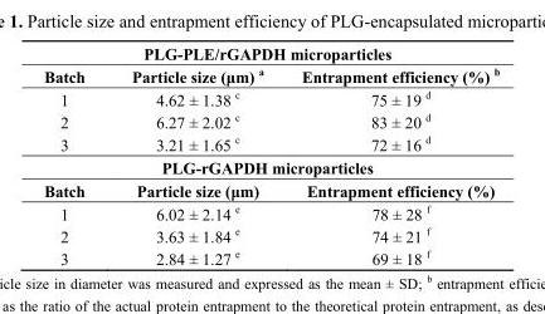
<table><thead><tr><td colspan="3">PLG-PLE/rGAPDH microparticles</td></tr><tr><td>Batch</td><td>Particle size (μm) <sup>a</sup></td><td>Entrapment efficiency (%) <sup>b</sup></td></tr></thead><tbody><tr><td>1</td><td>4.62 ± 1.38 <sup>c</sup></td><td>75 ± 19 <sup>d</sup></td></tr><tr><td>2</td><td>6.27 ± 2.02 <sup>c</sup></td><td>83 ± 20 <sup>d</sup></td></tr><tr><td>3</td><td>3.21 ± 1.65 <sup>c</sup></td><td>72 ± 16 <sup>d</sup></td></tr><tr><td colspan="3">PLG-rGAPDH microparticles</td></tr><tr><td>Batch</td><td>Particle size (μm)</td><td>Entrapment efficiency (%)</td></tr><tr><td>1</td><td>6.02 ± 2.14 <sup>e</sup></td><td>78 ± 28 <sup>f</sup></td></tr><tr><td>2</td><td>3.63 ± 1.84 <sup>e</sup></td><td>74 ± 21 <sup>f</sup></td></tr><tr><td>3</td><td>2.84 ± 1.27 <sup>e</sup></td><td>69 ± 18 <sup>f</sup></td></tr></tbody></table>